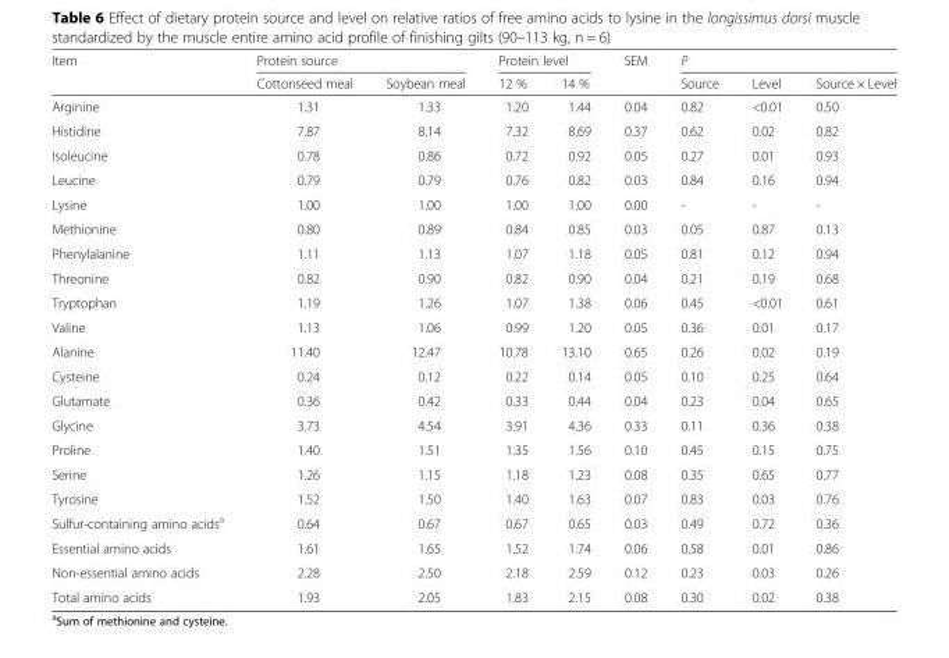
<table><thead><tr><td rowspan="2">Item</td><td colspan="2">Protein source</td><td colspan="2">Protein level</td><td rowspan="2">SEM</td><td colspan="3">P</td></tr><tr><td>Cottonseed meal</td><td>Soybean meal</td><td>12 %</td><td>14 %</td><td>Source</td><td>Level</td><td>Source × Level</td></tr></thead><tbody><tr><td>Arginine</td><td>1.31</td><td>1.33</td><td>1.20</td><td>1.44</td><td>0.04</td><td>0.82</td><td>&lt;0.01</td><td>0.50</td></tr><tr><td>Histidine</td><td>7.87</td><td>8.14</td><td>7.32</td><td>8.69</td><td>0.37</td><td>0.62</td><td>0.02</td><td>0.82</td></tr><tr><td>Isoleucine</td><td>0.78</td><td>0.86</td><td>0.72</td><td>0.92</td><td>0.05</td><td>0.27</td><td>0.01</td><td>0.93</td></tr><tr><td>Leucine</td><td>0.79</td><td>0.79</td><td>0.76</td><td>0.82</td><td>0.03</td><td>0.84</td><td>0.16</td><td>0.94</td></tr><tr><td>Lysine</td><td>1.00</td><td>1.00</td><td>1.00</td><td>1.00</td><td>0.00</td><td>-</td><td>-</td><td>-</td></tr><tr><td>Methionine</td><td>0.80</td><td>0.89</td><td>0.84</td><td>0.85</td><td>0.03</td><td>0.05</td><td>0.87</td><td>0.13</td></tr><tr><td>Phenylalanine</td><td>1.11</td><td>1.13</td><td>1.07</td><td>1.18</td><td>0.05</td><td>0.81</td><td>0.12</td><td>0.94</td></tr><tr><td>Threonine</td><td>0.82</td><td>0.90</td><td>0.82</td><td>0.90</td><td>0.04</td><td>0.21</td><td>0.19</td><td>0.68</td></tr><tr><td>Tryptophan</td><td>1.19</td><td>1.26</td><td>1.07</td><td>1.38</td><td>0.06</td><td>0.45</td><td>&lt;0.01</td><td>0.61</td></tr><tr><td>Valine</td><td>1.13</td><td>1.06</td><td>0.99</td><td>1.20</td><td>0.05</td><td>0.36</td><td>0.01</td><td>0.17</td></tr><tr><td>Alanine</td><td>11.40</td><td>12.47</td><td>10.78</td><td>13.10</td><td>0.65</td><td>0.26</td><td>0.02</td><td>0.19</td></tr><tr><td>Cysteine</td><td>0.24</td><td>0.12</td><td>0.22</td><td>0.14</td><td>0.05</td><td>0.10</td><td>0.25</td><td>0.64</td></tr><tr><td>Glutamate</td><td>0.36</td><td>0.42</td><td>0.33</td><td>0.44</td><td>0.04</td><td>0.23</td><td>0.04</td><td>0.65</td></tr><tr><td>Glycine</td><td>3.73</td><td>4.54</td><td>3.91</td><td>4.36</td><td>0.33</td><td>0.11</td><td>0.36</td><td>0.38</td></tr><tr><td>Proline</td><td>1.40</td><td>1.51</td><td>1.35</td><td>1.56</td><td>0.10</td><td>0.45</td><td>0.15</td><td>0.75</td></tr><tr><td>Serine</td><td>1.26</td><td>1.15</td><td>1.18</td><td>1.23</td><td>0.08</td><td>0.35</td><td>0.65</td><td>0.77</td></tr><tr><td>Tyrosine</td><td>1.52</td><td>1.50</td><td>1.40</td><td>1.63</td><td>0.07</td><td>0.83</td><td>0.03</td><td>0.76</td></tr><tr><td>Sulfur-containing amino acids<sup>a</sup></td><td>0.64</td><td>0.67</td><td>0.67</td><td>0.65</td><td>0.03</td><td>0.49</td><td>0.72</td><td>0.36</td></tr><tr><td>Essential amino acids</td><td>1.61</td><td>1.65</td><td>1.52</td><td>1.74</td><td>0.06</td><td>0.58</td><td>0.01</td><td>0.86</td></tr><tr><td>Non-essential amino acids</td><td>2.28</td><td>2.50</td><td>2.18</td><td>2.59</td><td>0.12</td><td>0.23</td><td>0.03</td><td>0.26</td></tr><tr><td>Total amino acids</td><td>1.93</td><td>2.05</td><td>1.83</td><td>2.15</td><td>0.08</td><td>0.30</td><td>0.02</td><td>0.38</td></tr></tbody></table>